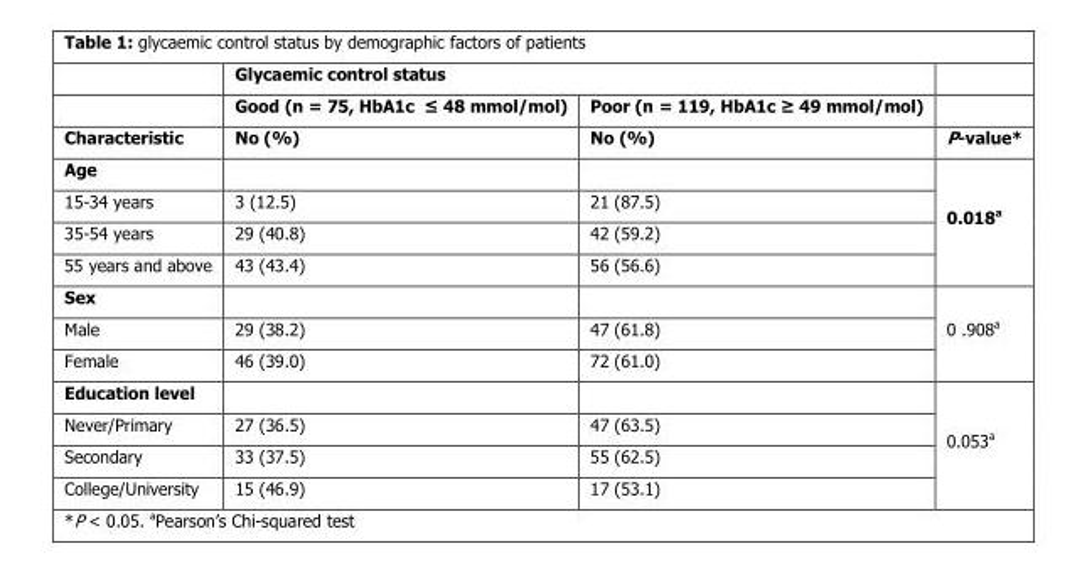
<table><thead><tr><td rowspan="3">Characteristic</td><td colspan="2">Glycaemic control status</td><td rowspan="3">P-value*</td></tr><tr><td rowspan="2">Good (n = 75, HbA1c ≤ 48 mmol/mol) No (%)</td><td rowspan="2">Poor (n = 119, HbA1c ≥ 49 mmol/mol) No (%)</td></tr><tr></tr></thead><tbody><tr><td colspan="3">Age</td><td rowspan="4">0.018<sup>a</sup></td></tr><tr><td>15-34 years</td><td>3 (12.5)</td><td>21 (87.5)</td></tr><tr><td>35-54 years</td><td>29 (40.8)</td><td>42 (59.2)</td></tr><tr><td>55 years and above</td><td>43 (43.4)</td><td>56 (56.6)</td></tr><tr><td colspan="3">Sex</td><td rowspan="3">0 .908<sup>a</sup></td></tr><tr><td>Male</td><td>29 (38.2)</td><td>47 (61.8)</td></tr><tr><td>Female</td><td>46 (39.0)</td><td>72 (61.0)</td></tr><tr><td colspan="3">Education level</td><td rowspan="4">0.053<sup>a</sup></td></tr><tr><td>Never/Primary</td><td>27 (36.5)</td><td>47 (63.5)</td></tr><tr><td>Secondary</td><td>33 (37.5)</td><td>55 (62.5)</td></tr><tr><td>College/University</td><td>15 (46.9)</td><td>17 (53.1)</td></tr></tbody></table>